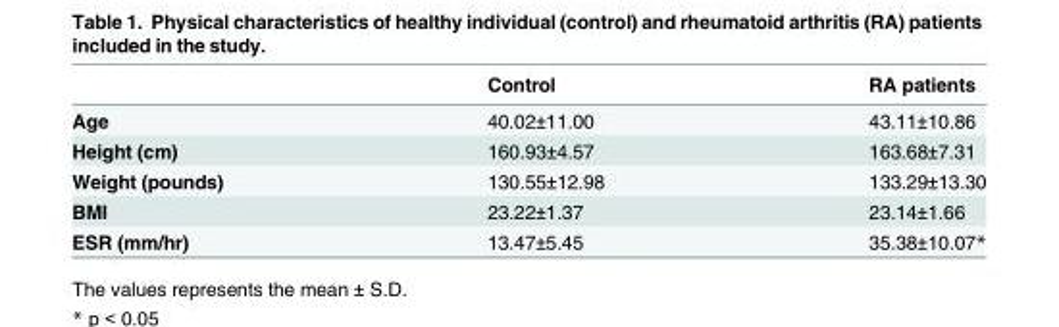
<table><thead><tr><td></td><td>Control</td><td>RA patients</td></tr></thead><tbody><tr><td>Age</td><td>40.02±11.00</td><td>43.11±10.86</td></tr><tr><td>Height (cm)</td><td>160.93±4.57</td><td>163.68±7.31</td></tr><tr><td>Weight (pounds)</td><td>130.55±12.98</td><td>133.29±13.30</td></tr><tr><td>BMI</td><td>23.22±1.37</td><td>23.14±1.66</td></tr><tr><td>ESR (mm/hr)</td><td>13.47±5.45</td><td>35.38±10.07*</td></tr></tbody></table>